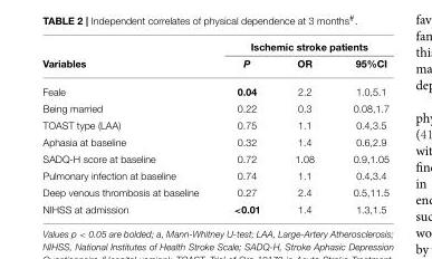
<table><thead><tr><td rowspan="2">Variables</td><td colspan="3">Ischemic stroke patients</td></tr><tr><td>P</td><td>OR</td><td>95%CI</td></tr></thead><tbody><tr><td>Feale</td><td>0.04</td><td>2.2</td><td>1.0,5.1</td></tr><tr><td>Being married</td><td>0.22</td><td>0.3</td><td>0.08,1.7</td></tr><tr><td>TOAST type (LAA)</td><td>0.75</td><td>1.1</td><td>0.4,3.5</td></tr><tr><td>Aphasia at baseline</td><td>0.32</td><td>1.4</td><td>0.6,2.9</td></tr><tr><td>SADQ-H score at baseline</td><td>0.72</td><td>1.08</td><td>0.9,1.05</td></tr><tr><td>Pulmonary infection at baseline</td><td>0.74</td><td>1.1</td><td>0.4,3.4</td></tr><tr><td>Deep venous thrombosis at baseline</td><td>0.27</td><td>2.4</td><td>0.5,11.5</td></tr><tr><td>NIHSS at admission</td><td>&lt;0.01</td><td>1.4</td><td>1.3,1.5</td></tr></tbody></table>